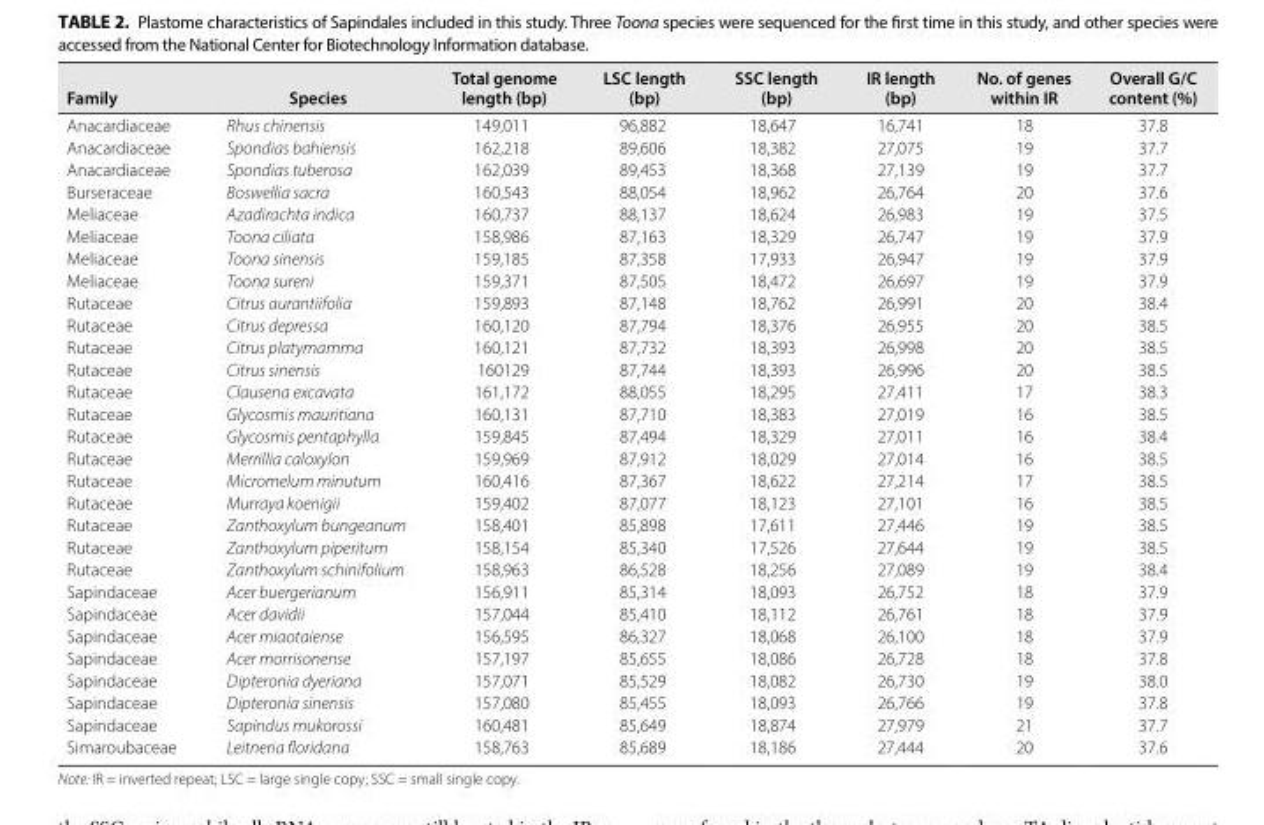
<table><thead><tr><td>Family</td><td>Species</td><td>Total genome length (bp)</td><td>LSC length (bp)</td><td>SSC length (bp)</td><td>IR length (bp)</td><td>No. of genes within IR</td><td>Overall G/C content (%)</td></tr></thead><tbody><tr><td>Anacardiaceae</td><td>Rhus chinensis</td><td>149,011</td><td>96,882</td><td>18,647</td><td>16,741</td><td>18</td><td>37.8</td></tr><tr><td>Anacardiaceae</td><td>Spondias bahiensis</td><td>162,218</td><td>89,606</td><td>18,382</td><td>27,075</td><td>19</td><td>37.7</td></tr><tr><td>Anacardiaceae</td><td>Spondias tuberosa</td><td>162,039</td><td>89,453</td><td>18,368</td><td>27,139</td><td>19</td><td>37.7</td></tr><tr><td>Burseraceae</td><td>Boswellia sacra</td><td>160,543</td><td>88,054</td><td>18,962</td><td>26,764</td><td>20</td><td>37.6</td></tr><tr><td>Meliaceae</td><td>Azadirachta indica</td><td>160,737</td><td>88,137</td><td>18,624</td><td>26,983</td><td>19</td><td>37.5</td></tr><tr><td>Meliaceae</td><td>Toona ciliata</td><td>158,986</td><td>87,163</td><td>18,329</td><td>26,747</td><td>19</td><td>37.9</td></tr><tr><td>Meliaceae</td><td>Toona sinensis</td><td>159,185</td><td>87,358</td><td>17,933</td><td>26,947</td><td>19</td><td>37.9</td></tr><tr><td>Meliaceae</td><td>Toona sureni</td><td>159,371</td><td>87,505</td><td>18,472</td><td>26,697</td><td>19</td><td>37.9</td></tr><tr><td>Rutaceae</td><td>Citrus aurantiifolia</td><td>159,893</td><td>87,148</td><td>18,762</td><td>26,991</td><td>20</td><td>38.4</td></tr><tr><td>Rutaceae</td><td>Citrus depressa</td><td>160,120</td><td>87,794</td><td>18,376</td><td>26,955</td><td>20</td><td>38.5</td></tr><tr><td>Rutaceae</td><td>Citrus platymamma</td><td>160,121</td><td>87,732</td><td>18,393</td><td>26,998</td><td>20</td><td>38.5</td></tr><tr><td>Rutaceae</td><td>Citrus sinensis</td><td>160129</td><td>87,744</td><td>18,393</td><td>26,996</td><td>20</td><td>38.5</td></tr><tr><td>Rutaceae</td><td>Clausena excavata</td><td>161,172</td><td>88,055</td><td>18,295</td><td>27,411</td><td>17</td><td>38.3</td></tr><tr><td>Rutaceae</td><td>Glycosmis mauritiana</td><td>160,131</td><td>87,710</td><td>18,383</td><td>27,019</td><td>16</td><td>38.5</td></tr><tr><td>Rutaceae</td><td>Glycosmis pentaphylla</td><td>159,845</td><td>87,494</td><td>18,329</td><td>27,011</td><td>16</td><td>38.4</td></tr><tr><td>Rutaceae</td><td>Merrillia caloxylon</td><td>159,969</td><td>87,912</td><td>18,029</td><td>27,014</td><td>16</td><td>38.5</td></tr><tr><td>Rutaceae</td><td>Micromelum minutum</td><td>160,416</td><td>87,367</td><td>18,622</td><td>27,214</td><td>17</td><td>38.5</td></tr><tr><td>Rutaceae</td><td>Murraya koenigii</td><td>159,402</td><td>87,077</td><td>18,123</td><td>27,101</td><td>16</td><td>38.5</td></tr><tr><td>Rutaceae</td><td>Zanthoxylum bungeanum</td><td>158,401</td><td>85,898</td><td>17,611</td><td>27,446</td><td>19</td><td>38.5</td></tr><tr><td>Rutaceae</td><td>Zanthoxylum piperitum</td><td>158,154</td><td>85,340</td><td>17,526</td><td>27,644</td><td>19</td><td>38.5</td></tr><tr><td>Rutaceae</td><td>Zanthoxylum schinifolium</td><td>158,963</td><td>86,528</td><td>18,256</td><td>27,089</td><td>19</td><td>38.4</td></tr><tr><td>Sapindaceae</td><td>Acer buergerianum</td><td>156,911</td><td>85,314</td><td>18,093</td><td>26,752</td><td>18</td><td>37.9</td></tr><tr><td>Sapindaceae</td><td>Acer davidii</td><td>157,044</td><td>85,410</td><td>18,112</td><td>26,761</td><td>18</td><td>37.9</td></tr><tr><td>Sapindaceae</td><td>Acer miaotaiense</td><td>156,595</td><td>86,327</td><td>18,068</td><td>26,100</td><td>18</td><td>37.9</td></tr><tr><td>Sapindaceae</td><td>Acer morrisonense</td><td>157,197</td><td>85,655</td><td>18,086</td><td>26,728</td><td>18</td><td>37.8</td></tr><tr><td>Sapindaceae</td><td>Dipteronia dyeriana</td><td>157,071</td><td>85,529</td><td>18,082</td><td>26,730</td><td>19</td><td>38.0</td></tr><tr><td>Sapindaceae</td><td>Dipteronia sinensis</td><td>157,080</td><td>85,455</td><td>18,093</td><td>26,766</td><td>19</td><td>37.8</td></tr><tr><td>Sapindaceae</td><td>Sapindus mukorossi</td><td>160,481</td><td>85,649</td><td>18,874</td><td>27,979</td><td>21</td><td>37.7</td></tr><tr><td>Simaroubaceae</td><td>Leitneria floridana</td><td>158,763</td><td>85,689</td><td>18,186</td><td>27,444</td><td>20</td><td>37.6</td></tr></tbody></table>